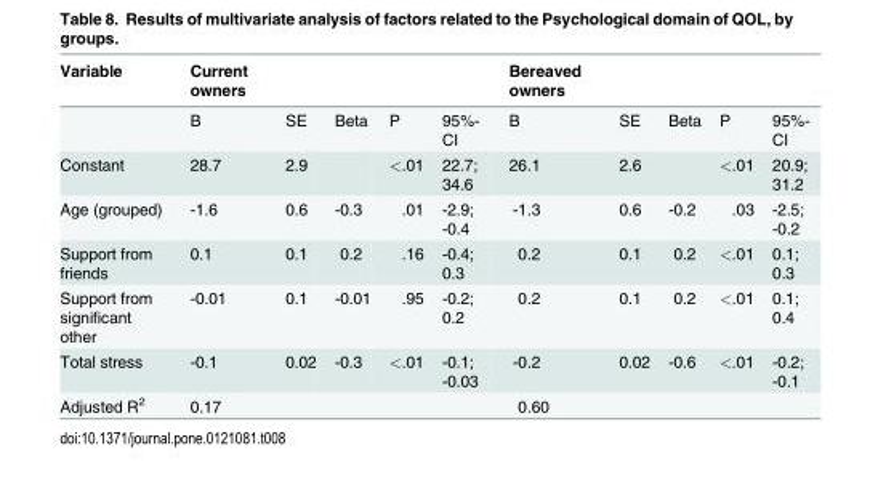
<table><thead><tr><td>Variable</td><td>Current owners</td><td></td><td></td><td></td><td></td><td>Bereaved owners</td><td></td><td></td><td></td><td></td></tr></thead><tbody><tr><td></td><td>B</td><td>SE</td><td>Beta</td><td>P</td><td>95%- CI</td><td>B</td><td>SE</td><td>Beta</td><td>P</td><td>95%- CI</td></tr><tr><td>Constant</td><td>28.7</td><td>2.9</td><td></td><td>&lt;.01</td><td>22.7; 34.6</td><td>26.1</td><td>2.6</td><td></td><td>&lt;.01</td><td>20.9; 31.2</td></tr><tr><td>Age (grouped)</td><td>-1.6</td><td>0.6</td><td>-0.3</td><td>.01</td><td>-2.9; -0.4</td><td>-1.3</td><td>0.6</td><td>-0.2</td><td>.03</td><td>-2.5; -0.2</td></tr><tr><td>Support from friends</td><td>0.1</td><td>0.1</td><td>0.2</td><td>.16</td><td>-0.4; 0.3</td><td>0.2</td><td>0.1</td><td>0.2</td><td>&lt;.01</td><td>0.1; 0.3</td></tr><tr><td>Support from significant other</td><td>-0.01</td><td>0.1</td><td>-0.01</td><td>.95</td><td>-0.2; 0.2</td><td>0.2</td><td>0.1</td><td>0.2</td><td>&lt;.01</td><td>0.1; 0.4</td></tr><tr><td>Total stress</td><td>-0.1</td><td>0.02</td><td>-0.3</td><td>&lt;.01</td><td>-0.1; -0.03</td><td>-0.2</td><td>0.02</td><td>-0.6</td><td>&lt;.01</td><td>-0.2; -0.1</td></tr><tr><td>Adjusted R<sup>2</sup></td><td>0.17</td><td></td><td></td><td></td><td></td><td>0.60</td><td></td><td></td><td></td><td></td></tr></tbody></table>